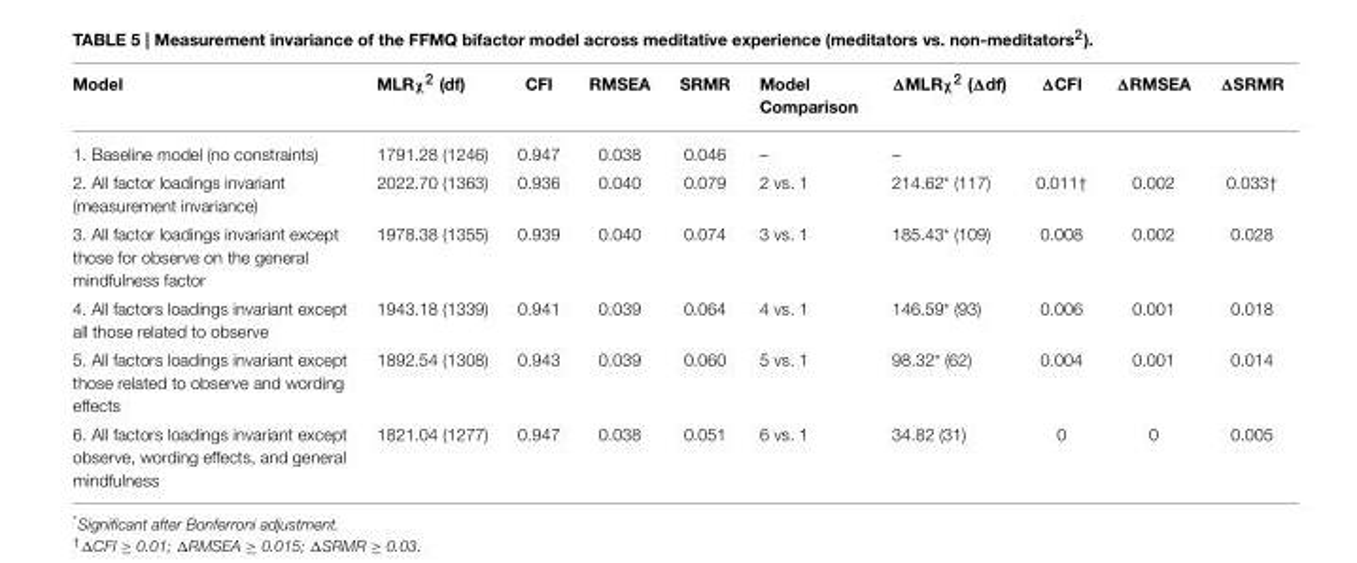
<table><thead><tr><td>Model</td><td>MLRχ<sup>2</sup> (df)</td><td>CFI</td><td>RMSEA</td><td>SRMR</td><td>Model Comparison</td><td>ΔMLRχ<sup>2</sup> (Δdf)</td><td>ΔCFI</td><td>ΔRMSEA</td><td>ΔSRMR</td></tr></thead><tbody><tr><td>1. Baseline model (no constraints)</td><td>1791.28 (1246)</td><td>0.947</td><td>0.038</td><td>0.046</td><td>–</td><td>–</td><td></td><td></td><td></td></tr><tr><td>2. All factor loadings invariant (measurement invariance)</td><td>2022.70 (1363)</td><td>0.936</td><td>0.040</td><td>0.079</td><td>2 vs. 1</td><td>214.62* (117)</td><td>0.011†</td><td>0.002</td><td>0.033†</td></tr><tr><td>3. All factor loadings invariant except those for observe on the general mindfulness factor</td><td>1978.38 (1355)</td><td>0.939</td><td>0.040</td><td>0.074</td><td>3 vs. 1</td><td>185.43* (109)</td><td>0.008</td><td>0.002</td><td>0.028</td></tr><tr><td>4. All factors loadings invariant except all those related to observe</td><td>1943.18 (1339)</td><td>0.941</td><td>0.039</td><td>0.064</td><td>4 vs. 1</td><td>146.59* (93)</td><td>0.006</td><td>0.001</td><td>0.018</td></tr><tr><td>5. All factors loadings invariant except those related to observe and wording effects</td><td>1892.54 (1308)</td><td>0.943</td><td>0.039</td><td>0.060</td><td>5 vs. 1</td><td>98.32* (62)</td><td>0.004</td><td>0.001</td><td>0.014</td></tr><tr><td>6. All factors loadings invariant except observe, wording effects, and general mindfulness</td><td>1821.04 (1277)</td><td>0.947</td><td>0.038</td><td>0.051</td><td>6 vs. 1</td><td>34.82 (31)</td><td>0</td><td>0</td><td>0.005</td></tr></tbody></table>